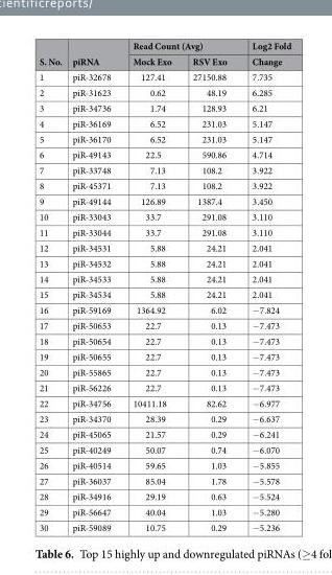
<table><thead><tr><td rowspan="2">S. No.</td><td rowspan="2">piRNA</td><td colspan="2">Read Count (Avg)</td><td rowspan="2">Log2 Fold Change</td></tr><tr><td>Mock Exo</td><td>RSV Exo</td></tr></thead><tbody><tr><td>1</td><td>piR-32678</td><td>127.41</td><td>27150.88</td><td>7.735</td></tr><tr><td>2</td><td>piR-31623</td><td>0.62</td><td>48.19</td><td>6.285</td></tr><tr><td>3</td><td>piR-34736</td><td>1.74</td><td>128.93</td><td>6.21</td></tr><tr><td>4</td><td>piR-36169</td><td>6.52</td><td>231.03</td><td>5.147</td></tr><tr><td>5</td><td>piR-36170</td><td>6.52</td><td>231.03</td><td>5.147</td></tr><tr><td>6</td><td>piR-49143</td><td>22.5</td><td>590.86</td><td>4.714</td></tr><tr><td>7</td><td>piR-33748</td><td>7.13</td><td>108.2</td><td>3.922</td></tr><tr><td>8</td><td>piR-45371</td><td>7.13</td><td>108.2</td><td>3.922</td></tr><tr><td>9</td><td>piR-49144</td><td>126.89</td><td>1387.4</td><td>3.450</td></tr><tr><td>10</td><td>piR-33043</td><td>33.7</td><td>291.08</td><td>3.110</td></tr><tr><td>11</td><td>piR-33044</td><td>33.7</td><td>291.08</td><td>3.110</td></tr><tr><td>12</td><td>piR-34531</td><td>5.88</td><td>24.21</td><td>2.041</td></tr><tr><td>13</td><td>piR-34532</td><td>5.88</td><td>24.21</td><td>2.041</td></tr><tr><td>14</td><td>piR-34533</td><td>5.88</td><td>24.21</td><td>2.041</td></tr><tr><td>15</td><td>piR-34534</td><td>5.88</td><td>24.21</td><td>2.041</td></tr><tr><td>16</td><td>piR-59169</td><td>1364.92</td><td>6.02</td><td>−7.824</td></tr><tr><td>17</td><td>piR-50653</td><td>22.7</td><td>0.13</td><td>−7.473</td></tr><tr><td>18</td><td>piR-50654</td><td>22.7</td><td>0.13</td><td>−7.473</td></tr><tr><td>19</td><td>piR-50655</td><td>22.7</td><td>0.13</td><td>−7.473</td></tr><tr><td>20</td><td>piR-55865</td><td>22.7</td><td>0.13</td><td>−7.473</td></tr><tr><td>21</td><td>piR-56226</td><td>22.7</td><td>0.13</td><td>−7.473</td></tr><tr><td>22</td><td>piR-34756</td><td>10411.18</td><td>82.62</td><td>−6.977</td></tr><tr><td>23</td><td>piR-34370</td><td>28.39</td><td>0.29</td><td>−6.637</td></tr><tr><td>24</td><td>piR-45065</td><td>21.57</td><td>0.29</td><td>−6.241</td></tr><tr><td>25</td><td>piR-40249</td><td>50.07</td><td>0.74</td><td>−6.070</td></tr><tr><td>26</td><td>piR-40514</td><td>59.65</td><td>1.03</td><td>−5.855</td></tr><tr><td>27</td><td>piR-36037</td><td>85.04</td><td>1.78</td><td>−5.578</td></tr><tr><td>28</td><td>piR-34916</td><td>29.19</td><td>0.63</td><td>−5.524</td></tr><tr><td>29</td><td>piR-56647</td><td>40.04</td><td>1.03</td><td>−5.280</td></tr><tr><td>30</td><td>piR-59089</td><td>10.75</td><td>0.29</td><td>−5.236</td></tr></tbody></table>